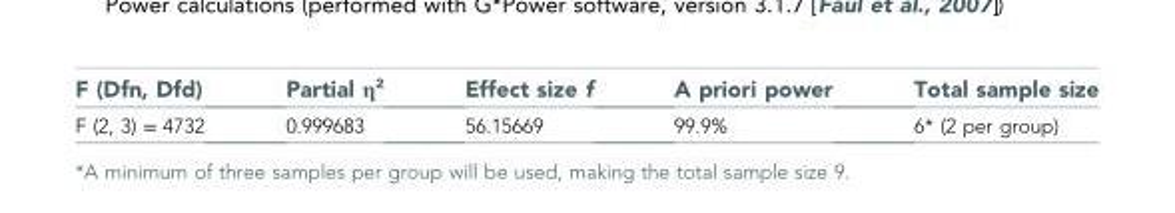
<table><thead><tr><td>F (Dfn, Dfd)</td><td>Partial η<sup>2</sup></td><td>Effect size f</td><td>A priori power</td><td>Total sample size</td></tr></thead><tbody><tr><td>F (2, 3) = 4732</td><td>0.999683</td><td>56.15669</td><td>99.9%</td><td>6* (2 per group)</td></tr></tbody></table>